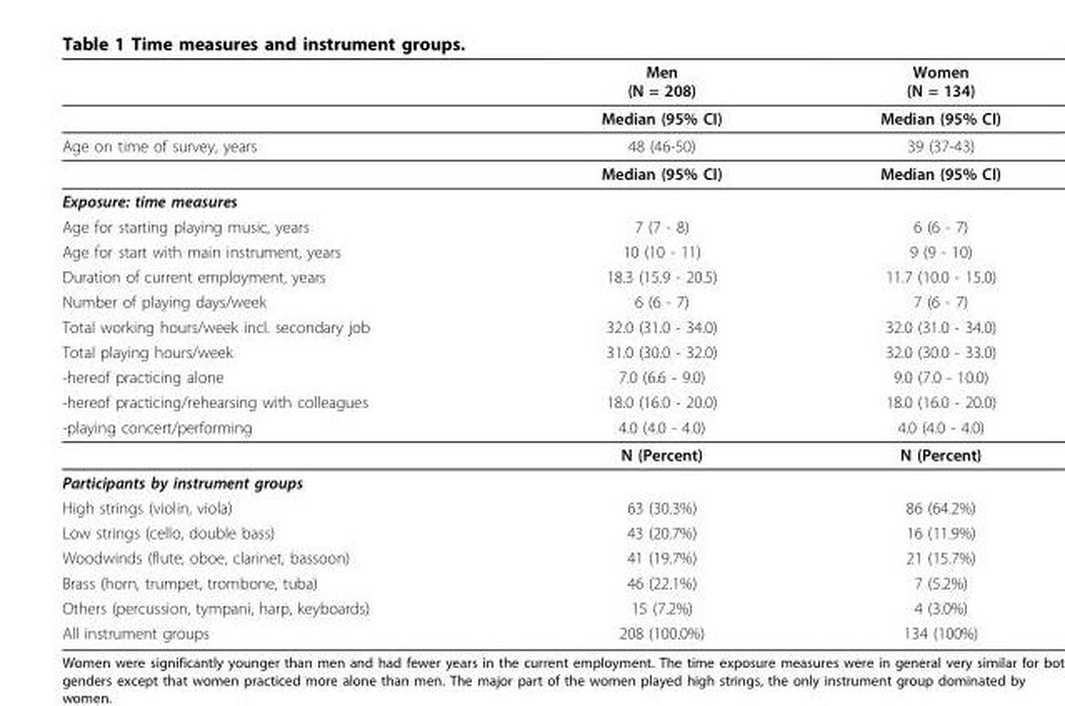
<table><thead><tr><td></td><td>Men (N = 208)</td><td>Women (N = 134)</td></tr></thead><tbody><tr><td></td><td>Median (95% CI)</td><td>Median (95% CI)</td></tr><tr><td rowspan="2">Age on time of survey, years</td><td>48 (46-50)</td><td>39 (37-43)</td></tr><tr><td>Median (95% CI)</td><td>Median (95% CI)</td></tr><tr><td colspan="3">Exposure: time measures</td></tr><tr><td>Age for starting playing music, years</td><td>7 (7 - 8)</td><td>6 (6 - 7)</td></tr><tr><td>Age for start with main instrument, years</td><td>10 (10 - 11)</td><td>9 (9 - 10)</td></tr><tr><td>Duration of current employment, years</td><td>18.3 (15.9 - 20.5)</td><td>11.7 (10.0 - 15.0)</td></tr><tr><td>Number of playing days/week</td><td>6 (6 - 7)</td><td>7 (6 - 7)</td></tr><tr><td>Total working hours/week incl. secondary job</td><td>32.0 (31.0 - 34.0)</td><td>32.0 (31.0 - 34.0)</td></tr><tr><td>Total playing hours/week</td><td>31.0 (30.0 - 32.0)</td><td>32.0 (30.0 - 33.0)</td></tr><tr><td>-hereof practicing alone</td><td>7.0 (6.6 - 9.0)</td><td>9.0 (7.0 - 10.0)</td></tr><tr><td>-hereof practicing/rehearsing with colleagues</td><td>18.0 (16.0 - 20.0)</td><td>18.0 (16.0 - 20.0)</td></tr><tr><td rowspan="2">-playing concert/performing</td><td>4.0 (4.0 - 4.0)</td><td>4.0 (4.0 - 4.0)</td></tr><tr><td>N (Percent)</td><td>N (Percent)</td></tr><tr><td colspan="3">Participants by instrument groups</td></tr><tr><td>High strings (violin, viola)</td><td>63 (30.3%)</td><td>86 (64.2%)</td></tr><tr><td>Low strings (cello, double bass)</td><td>43 (20.7%)</td><td>16 (11.9%)</td></tr><tr><td>Woodwinds (flute, oboe, clarinet, bassoon)</td><td>41 (19.7%)</td><td>21 (15.7%)</td></tr><tr><td>Brass (horn, trumpet, trombone, tuba)</td><td>46 (22.1%)</td><td>7 (5.2%)</td></tr><tr><td>Others (percussion, tympani, harp, keyboards)</td><td>15 (7.2%)</td><td>4 (3.0%)</td></tr><tr><td>All instrument groups</td><td>208 (100.0%)</td><td>134 (100%)</td></tr></tbody></table>